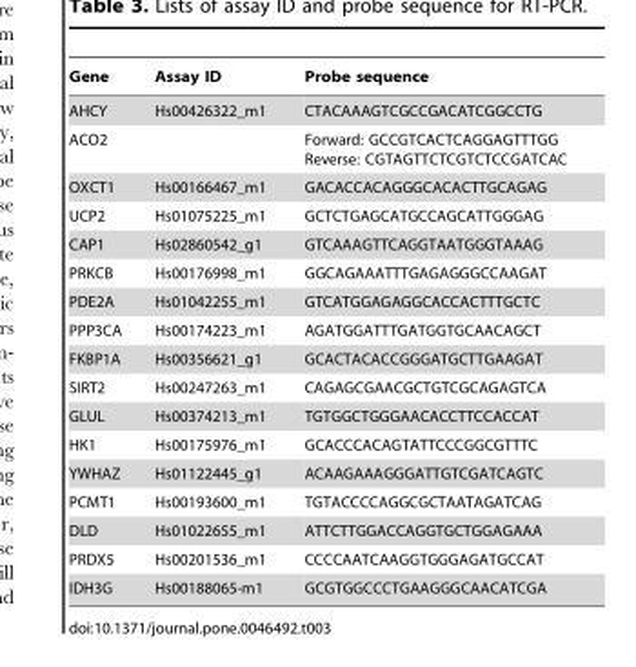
<table><thead><tr><td>Gene</td><td>Assay ID</td><td>Probe sequence</td></tr></thead><tbody><tr><td>AHCY</td><td>Hs00426322_m1</td><td>CTACAAAGTCGCCGACATCGGCCTG</td></tr><tr><td>ACO2</td><td></td><td>Forward: GCCGTCACTCAGGAGTTTGG Reverse: CGTAGTTCTCGTCTCCGATCAC</td></tr><tr><td>OXCT1</td><td>Hs00166467_m1</td><td>GACACCACAGGGCACACTTGCAGAG</td></tr><tr><td>UCP2</td><td>Hs01075225_m1</td><td>GCTCTGAGCATGCCAGCATTGGGAG</td></tr><tr><td>CAP1</td><td>Hs02860542_g1</td><td>GTCAAAGTTCAGGTAATGGGTAAAG</td></tr><tr><td>PRKCB</td><td>Hs00176998_m1</td><td>GGCAGAAATTTGAGAGGGCCAAGAT</td></tr><tr><td>PDE2A</td><td>Hs01042255_m1</td><td>GTCATGGAGAGGCACCACTTTGCTC</td></tr><tr><td>PPP3CA</td><td>Hs00174223_m1</td><td>AGATGGATTTGATGGTGCAACAGCT</td></tr><tr><td>FKBP1A</td><td>Hs00356621_g1</td><td>GCACTACACCGGGATGCTTGAAGAT</td></tr><tr><td>SIRT2</td><td>Hs00247263_m1</td><td>CAGAGCGAACGCTGTCGCAGAGTCA</td></tr><tr><td>GLUL</td><td>Hs00374213_m1</td><td>TGTGGCTGGGAACACCTTCCACCAT</td></tr><tr><td>HK1</td><td>Hs00175976_m1</td><td>GCACCCACAGTATTCCCGGCGTTTC</td></tr><tr><td>YWHAZ</td><td>Hs01122445_g1</td><td>ACAAGAAAGGGATTGTCGATCAGTC</td></tr><tr><td>PCMT1</td><td>Hs00193600_m1</td><td>TGTACCCCAGGCGCTAATAGATCAG</td></tr><tr><td>DLD</td><td>Hs01022655_m1</td><td>ATTCTTGGACCAGGTGCTGGAGAAA</td></tr><tr><td>PRDX5</td><td>Hs00201536_m1</td><td>CCCCAATCAAGGTGGGAGATGCCAT</td></tr><tr><td>IDH3G</td><td>Hs00188065-m1</td><td>GCGTGGCCCTGAAGGGCAACATCGA</td></tr></tbody></table>